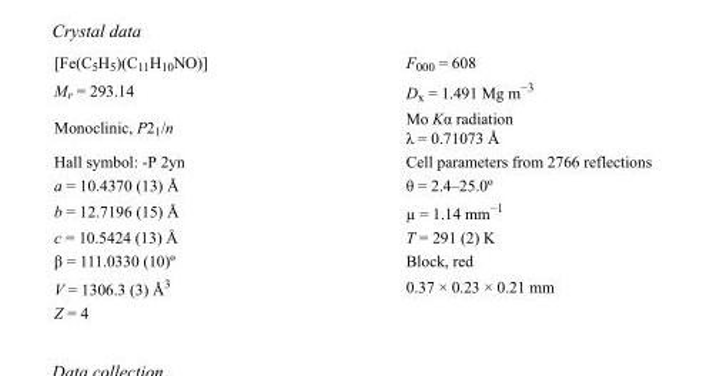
<table><tbody><tr><td>[Fe(C<sub>5</sub>H<sub>5</sub>)(C<sub>11</sub>H<sub>10</sub>NO)]</td><td>F<sub>000</sub> = 608</td></tr><tr><td>M<sub>r</sub> = 293.14</td><td>D<sub>x</sub> = 1.491 Mg m<sup>−3</sup></td></tr><tr><td>Monoclinic, P2<sub>1</sub>/n</td><td>Mo Kα radiation λ = 0.71073 Å</td></tr><tr><td>Hall symbol: -P 2yn</td><td>Cell parameters from 2766 reflections</td></tr><tr><td>a = 10.4370 (13) Å</td><td>θ = 2.4–25.0º</td></tr><tr><td>b = 12.7196 (15) Å</td><td>µ = 1.14 mm<sup>−1</sup></td></tr><tr><td>c = 10.5424 (13) Å</td><td>T = 291 (2) K</td></tr><tr><td>β = 111.0330 (10)º</td><td>Block, red</td></tr><tr><td>V = 1306.3 (3) Å<sup>3</sup></td><td>0.37 × 0.23 × 0.21 mm</td></tr><tr><td>Z = 4</td><td></td></tr></tbody></table>